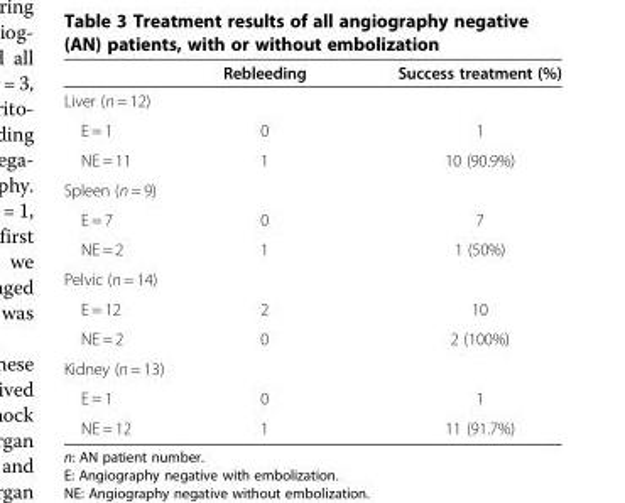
<table><thead><tr><td></td><td>Rebleeding</td><td>Success treatment (%)</td></tr></thead><tbody><tr><td colspan="3">Liver (n = 12)</td></tr><tr><td>E = 1</td><td>0</td><td>1</td></tr><tr><td>NE = 11</td><td>1</td><td>10 (90.9%)</td></tr><tr><td colspan="3">Spleen (n = 9)</td></tr><tr><td>E = 7</td><td>0</td><td>7</td></tr><tr><td>NE = 2</td><td>1</td><td>1 (50%)</td></tr><tr><td colspan="3">Pelvic (n = 14)</td></tr><tr><td>E = 12</td><td>2</td><td>10</td></tr><tr><td>NE = 2</td><td>0</td><td>2 (100%)</td></tr><tr><td colspan="3">Kidney (n = 13)</td></tr><tr><td>E = 1</td><td>0</td><td>1</td></tr><tr><td>NE = 12</td><td>1</td><td>11 (91.7%)</td></tr></tbody></table>